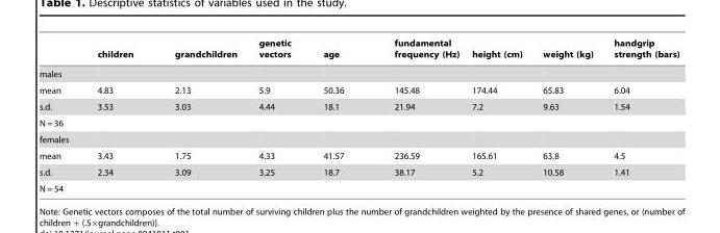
<table><thead><tr><td></td><td>children</td><td>grandchildren</td><td>genetic vectors</td><td>age</td><td>fundamental frequency (Hz)</td><td>height (cm)</td><td>weight (kg)</td><td>handgrip strength (bars)</td></tr></thead><tbody><tr><td colspan="9">males</td></tr><tr><td>mean</td><td>4.83</td><td>2.13</td><td>5.9</td><td>50.36</td><td>145.48</td><td>174.44</td><td>65.83</td><td>6.04</td></tr><tr><td>s.d.</td><td>3.53</td><td>3.03</td><td>4.44</td><td>18.1</td><td>21.94</td><td>7.2</td><td>9.63</td><td>1.54</td></tr><tr><td colspan="9">N = 36</td></tr><tr><td colspan="9">females</td></tr><tr><td>mean</td><td>3.43</td><td>1.75</td><td>4.33</td><td>41.57</td><td>236.59</td><td>165.61</td><td>63.8</td><td>4.5</td></tr><tr><td>s.d.</td><td>2.34</td><td>3.09</td><td>3.25</td><td>18.7</td><td>38.17</td><td>5.2</td><td>10.58</td><td>1.41</td></tr><tr><td>N = 54</td><td></td><td></td><td></td><td></td><td></td><td></td><td></td><td></td></tr></tbody></table>